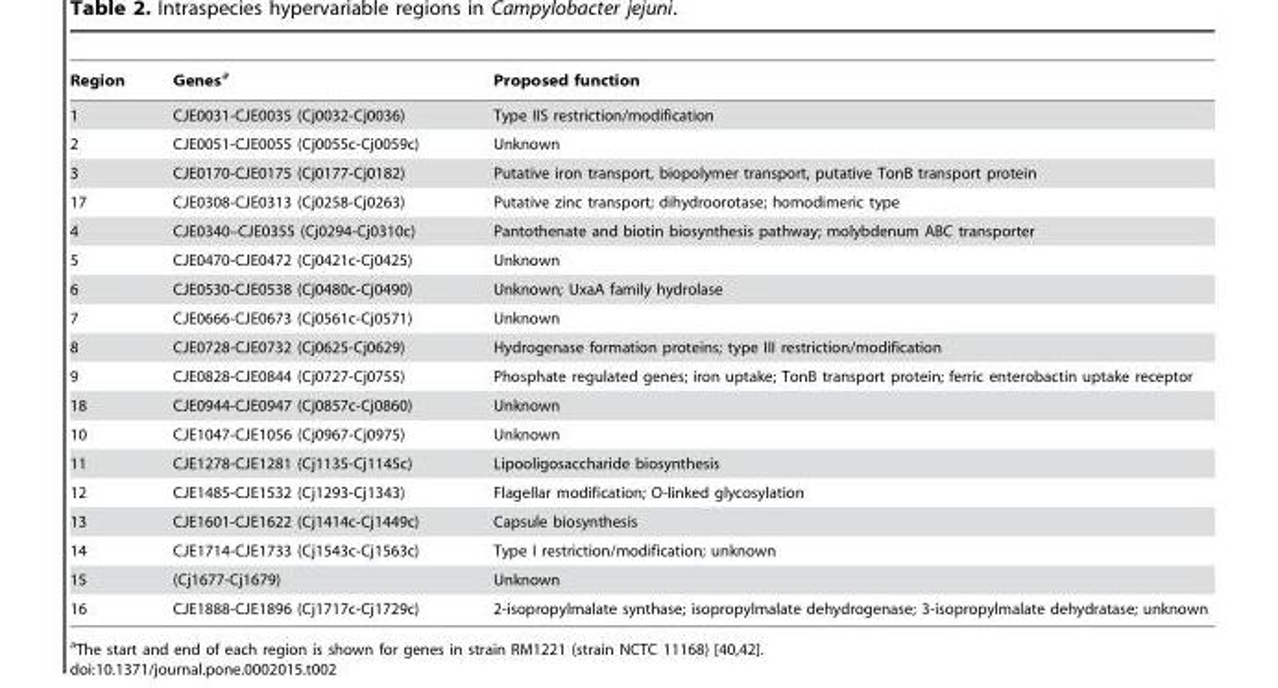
<table><thead><tr><td>Region</td><td>Genes<sup>a</sup></td><td>Proposed function</td></tr></thead><tbody><tr><td>1</td><td>CJE0031-CJE0035 (Cj0032-Cj0036)</td><td>Type IIS restriction/modification</td></tr><tr><td>2</td><td>CJE0051-CJE0055 (Cj0055c-Cj0059c)</td><td>Unknown</td></tr><tr><td>3</td><td>CJE0170-CJE0175 (Cj0177-Cj0182)</td><td>Putative iron transport, biopolymer transport, putative TonB transport protein</td></tr><tr><td>17</td><td>CJE0308-CJE0313 (Cj0258-Cj0263)</td><td>Putative zinc transport; dihydroorotase; homodimeric type</td></tr><tr><td>4</td><td>CJE0340–CJE0355 (Cj0294-Cj0310c)</td><td>Pantothenate and biotin biosynthesis pathway; molybdenum ABC transporter</td></tr><tr><td>5</td><td>CJE0470-CJE0472 (Cj0421c-Cj0425)</td><td>Unknown</td></tr><tr><td>6</td><td>CJE0530-CJE0538 (Cj0480c-Cj0490)</td><td>Unknown; UxaA family hydrolase</td></tr><tr><td>7</td><td>CJE0666-CJE0673 (Cj0561c-Cj0571)</td><td>Unknown</td></tr><tr><td>8</td><td>CJE0728-CJE0732 (Cj0625-Cj0629)</td><td>Hydrogenase formation proteins; type III restriction/modification</td></tr><tr><td>9</td><td>CJE0828-CJE0844 (Cj0727-Cj0755)</td><td>Phosphate regulated genes; iron uptake; TonB transport protein; ferric enterobactin uptake receptor</td></tr><tr><td>18</td><td>CJE0944-CJE0947 (Cj0857c-Cj0860)</td><td>Unknown</td></tr><tr><td>10</td><td>CJE1047-CJE1056 (Cj0967-Cj0975)</td><td>Unknown</td></tr><tr><td>11</td><td>CJE1278-CJE1281 (Cj1135-Cj1145c)</td><td>Lipooligosaccharide biosynthesis</td></tr><tr><td>12</td><td>CJE1485-CJE1532 (Cj1293-Cj1343)</td><td>Flagellar modification; O-linked glycosylation</td></tr><tr><td>13</td><td>CJE1601-CJE1622 (Cj1414c-Cj1449c)</td><td>Capsule biosynthesis</td></tr><tr><td>14</td><td>CJE1714-CJE1733 (Cj1543c-Cj1563c)</td><td>Type I restriction/modification; unknown</td></tr><tr><td>15</td><td>(Cj1677-Cj1679)</td><td>Unknown</td></tr><tr><td>16</td><td>CJE1888-CJE1896 (Cj1717c-Cj1729c)</td><td>2-isopropylmalate synthase; isopropylmalate dehydrogenase; 3-isopropylmalate dehydratase; unknown</td></tr></tbody></table>